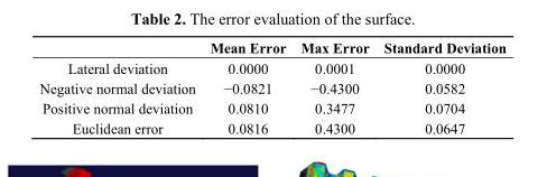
<table><thead><tr><td></td><td>Mean Error</td><td>Max Error</td><td>Standard Deviation</td></tr></thead><tbody><tr><td>Lateral deviation</td><td>0.0000</td><td>0.0001</td><td>0.0000</td></tr><tr><td>Negative normal deviation</td><td>−0.0821</td><td>−0.4300</td><td>0.0582</td></tr><tr><td>Positive normal deviation</td><td>0.0810</td><td>0.3477</td><td>0.0704</td></tr><tr><td>Euclidean error</td><td>0.0816</td><td>0.4300</td><td>0.0647</td></tr></tbody></table>